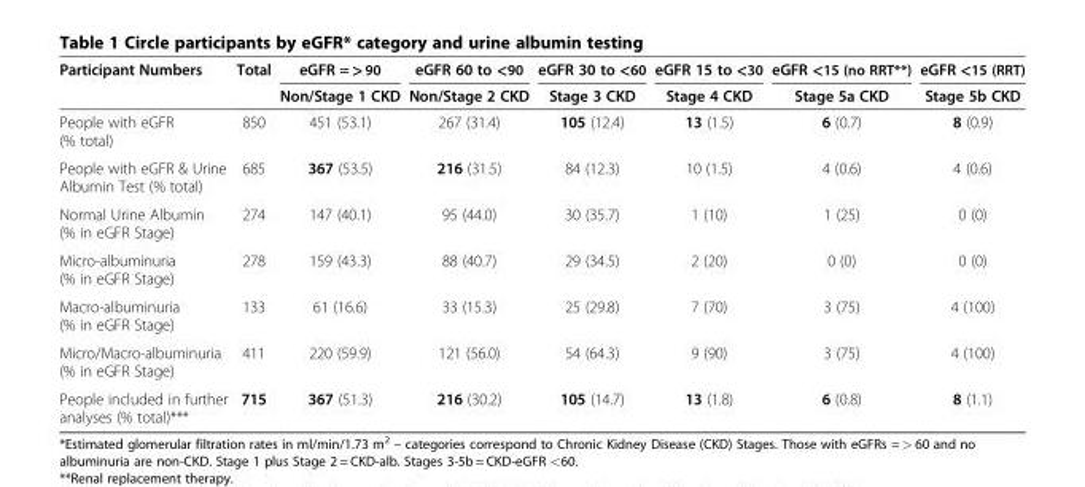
<table><thead><tr><td>Participant Numbers</td><td>Total</td><td>eGFR =&gt; 90</td><td>eGFR 60 to &lt;90</td><td>eGFR 30 to &lt;60</td><td>eGFR 15 to &lt;30</td><td>eGFR &lt;15 (no RRT**)</td><td>eGFR &lt;15 (RRT)</td></tr></thead><tbody><tr><td></td><td></td><td>Non/Stage 1 CKD</td><td>Non/Stage 2 CKD</td><td>Stage 3 CKD</td><td>Stage 4 CKD</td><td>Stage 5a CKD</td><td>Stage 5b CKD</td></tr><tr><td>People with eGFR (% total)</td><td>850</td><td>451 (53.1)</td><td>267 (31.4)</td><td>105 (12.4)</td><td>13 (1.5)</td><td>6 (0.7)</td><td>8 (0.9)</td></tr><tr><td>People with eGFR &amp; Urine Albumin Test (% total)</td><td>685</td><td>367 (53.5)</td><td>216 (31.5)</td><td>84 (12.3)</td><td>10 (1.5)</td><td>4 (0.6)</td><td>4 (0.6)</td></tr><tr><td>Normal Urine Albumin (% in eGFR Stage)</td><td>274</td><td>147 (40.1)</td><td>95 (44.0)</td><td>30 (35.7)</td><td>1 (10)</td><td>1 (25)</td><td>0 (0)</td></tr><tr><td>Micro-albuminuria (% in eGFR Stage)</td><td>278</td><td>159 (43.3)</td><td>88 (40.7)</td><td>29 (34.5)</td><td>2 (20)</td><td>0 (0)</td><td>0 (0)</td></tr><tr><td>Macro-albuminuria (% in eGFR Stage)</td><td>133</td><td>61 (16.6)</td><td>33 (15.3)</td><td>25 (29.8)</td><td>7 (70)</td><td>3 (75)</td><td>4 (100)</td></tr><tr><td>Micro/Macro-albuminuria (% in eGFR Stage)</td><td>411</td><td>220 (59.9)</td><td>121 (56.0)</td><td>54 (64.3)</td><td>9 (90)</td><td>3 (75)</td><td>4 (100)</td></tr><tr><td>People included in further analyses (% total)***</td><td>715</td><td>367 (51.3)</td><td>216 (30.2)</td><td>105 (14.7)</td><td>13 (1.8)</td><td>6 (0.8)</td><td>8 (1.1)</td></tr></tbody></table>